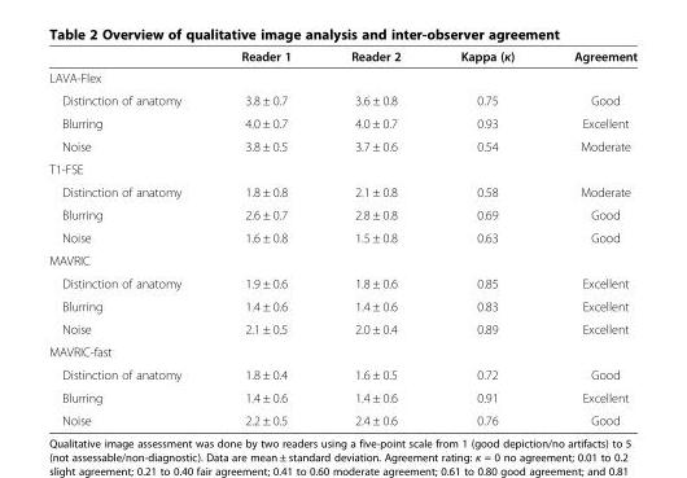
<table><thead><tr><td></td><td>Reader 1</td><td>Reader 2</td><td>Kappa (κ)</td><td>Agreement</td></tr></thead><tbody><tr><td colspan="5">LAVA-Flex</td></tr><tr><td>Distinction of anatomy</td><td>3.8 ± 0.7</td><td>3.6 ± 0.8</td><td>0.75</td><td>Good</td></tr><tr><td>Blurring</td><td>4.0 ± 0.7</td><td>4.0 ± 0.7</td><td>0.93</td><td>Excellent</td></tr><tr><td>Noise</td><td>3.8 ± 0.5</td><td>3.7 ± 0.6</td><td>0.54</td><td>Moderate</td></tr><tr><td colspan="5">T1-FSE</td></tr><tr><td>Distinction of anatomy</td><td>1.8 ± 0.8</td><td>2.1 ± 0.8</td><td>0.58</td><td>Moderate</td></tr><tr><td>Blurring</td><td>2.6 ± 0.7</td><td>2.8 ± 0.8</td><td>0.69</td><td>Good</td></tr><tr><td>Noise</td><td>1.6 ± 0.8</td><td>1.5 ± 0.8</td><td>0.63</td><td>Good</td></tr><tr><td colspan="5">MAVRIC</td></tr><tr><td>Distinction of anatomy</td><td>1.9 ± 0.6</td><td>1.8 ± 0.6</td><td>0.85</td><td>Excellent</td></tr><tr><td>Blurring</td><td>1.4 ± 0.6</td><td>1.4 ± 0.6</td><td>0.83</td><td>Excellent</td></tr><tr><td>Noise</td><td>2.1 ± 0.5</td><td>2.0 ± 0.4</td><td>0.89</td><td>Excellent</td></tr><tr><td colspan="5">MAVRIC-fast</td></tr><tr><td>Distinction of anatomy</td><td>1.8 ± 0.4</td><td>1.6 ± 0.5</td><td>0.72</td><td>Good</td></tr><tr><td>Blurring</td><td>1.4 ± 0.6</td><td>1.4 ± 0.6</td><td>0.91</td><td>Excellent</td></tr><tr><td>Noise</td><td>2.2 ± 0.5</td><td>2.4 ± 0.6</td><td>0.76</td><td>Good</td></tr></tbody></table>